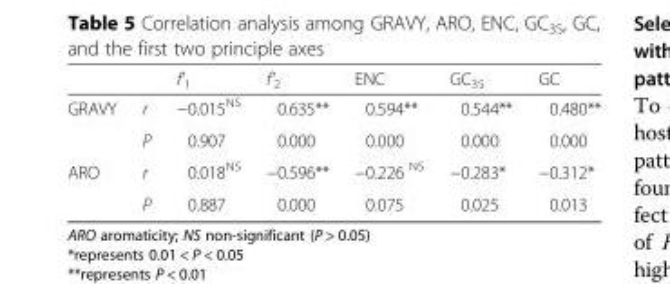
<table><thead><tr><td></td><td></td><td>f&#x27;<sub>1</sub></td><td>f&#x27;<sub>2</sub></td><td>ENC</td><td>GC<sub>3S</sub></td><td>GC</td></tr></thead><tbody><tr><td rowspan="2">GRAVY</td><td>r</td><td>−0.015<sup>NS</sup></td><td>0.635**</td><td>0.594**</td><td>0.544**</td><td>0.480**</td></tr><tr><td>P</td><td>0.907</td><td>0.000</td><td>0.000</td><td>0.000</td><td>0.000</td></tr><tr><td rowspan="2">ARO</td><td>r</td><td>0.018<sup>NS</sup></td><td>−0.596**</td><td>−0.226 <sup>NS</sup></td><td>−0.283*</td><td>−0.312*</td></tr><tr><td>P</td><td>0.887</td><td>0.000</td><td>0.075</td><td>0.025</td><td>0.013</td></tr></tbody></table>